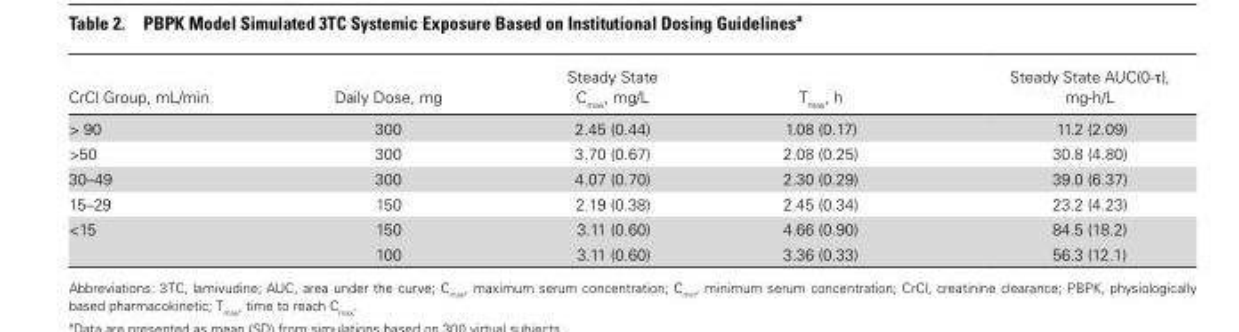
<table><thead><tr><td>CrCl Group, mL/min</td><td>Daily Dose, mg</td><td>Steady State C<sub>max</sub>, mg/L</td><td>T<sub>max</sub>, h</td><td>Steady State AUC(0-τ), mg-h/L</td></tr></thead><tbody><tr><td>&gt; 90</td><td>300</td><td>2.45 (0.44)</td><td>1.08 (0.17)</td><td>11.2 (2.09)</td></tr><tr><td>&gt;50</td><td>300</td><td>3.70 (0.67)</td><td>2.08 (0.25)</td><td>30.8 (4.80)</td></tr><tr><td>30–49</td><td>300</td><td>4.07 (0.70)</td><td>2.30 (0.29)</td><td>39.0 (6.37)</td></tr><tr><td>15–29</td><td>150</td><td>2.19 (0.38)</td><td>2.45 (0.34)</td><td>23.2 (4.23)</td></tr><tr><td rowspan="2">&lt;15</td><td>150</td><td>3.11 (0.60)</td><td>4.66 (0.90)</td><td>84.5 (18.2)</td></tr><tr><td>100</td><td>3.11 (0.60)</td><td>3.36 (0.33)</td><td>56.3 (12.1)</td></tr></tbody></table>